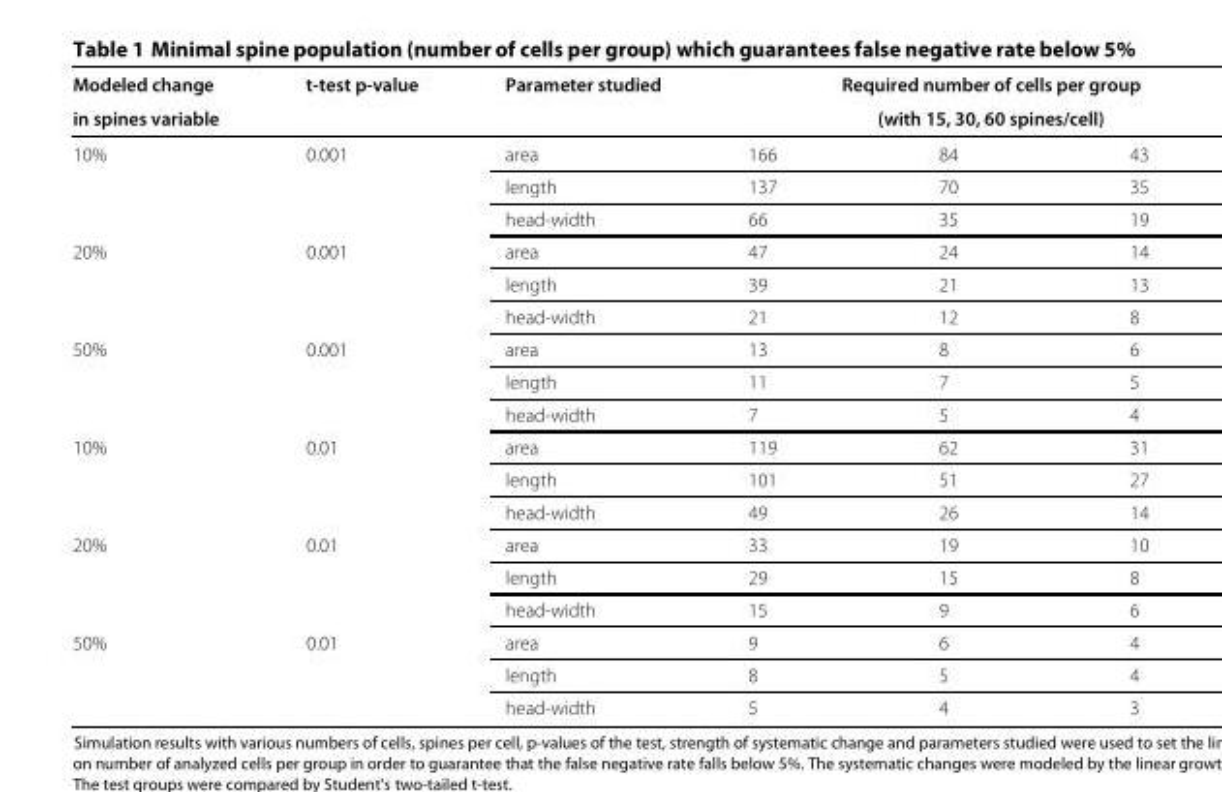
<table><thead><tr><td rowspan="3">Modeled change in spines variable 10%</td><td rowspan="3">t-test p-value 0.001</td><td rowspan="3">Parameter studied area</td><td rowspan="2" colspan="3">Required number of cells per group (with 15, 30, 60 spines/cell)</td></tr><tr></tr><tr><td>166</td><td>84</td><td>43</td></tr></thead><tbody><tr><td></td><td></td><td>length</td><td>137</td><td>70</td><td>35</td></tr><tr><td></td><td></td><td>head-width</td><td>66</td><td>35</td><td>19</td></tr><tr><td rowspan="3">20%</td><td>0.001</td><td>area</td><td>47</td><td>24</td><td>14</td></tr><tr><td></td><td>length</td><td>39</td><td>21</td><td>13</td></tr><tr><td></td><td>head-width</td><td>21</td><td>12</td><td>8</td></tr><tr><td rowspan="3">50%</td><td>0.001</td><td>area</td><td>13</td><td>8</td><td>6</td></tr><tr><td></td><td>length</td><td>11</td><td>7</td><td>5</td></tr><tr><td></td><td>head-width</td><td>7</td><td>5</td><td>4</td></tr><tr><td rowspan="3">10%</td><td>0.01</td><td>area</td><td>119</td><td>62</td><td>31</td></tr><tr><td></td><td>length</td><td>101</td><td>51</td><td>27</td></tr><tr><td></td><td>head-width</td><td>49</td><td>26</td><td>14</td></tr><tr><td rowspan="3">20%</td><td>0.01</td><td>area</td><td>33</td><td>19</td><td>10</td></tr><tr><td></td><td>length</td><td>29</td><td>15</td><td>8</td></tr><tr><td></td><td>head-width</td><td>15</td><td>9</td><td>6</td></tr><tr><td rowspan="3">50%</td><td>0.01</td><td>area</td><td>9</td><td>6</td><td>4</td></tr><tr><td></td><td>length</td><td>8</td><td>5</td><td>4</td></tr><tr><td></td><td>head-width</td><td>5</td><td>4</td><td>3</td></tr></tbody></table>